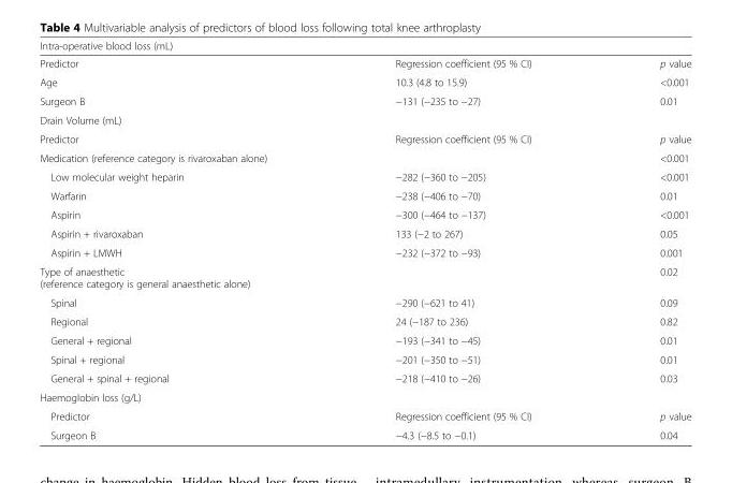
<table><thead><tr><td colspan="3">Intra-operative blood loss (mL)</td></tr><tr><td>Predictor</td><td>Regression coefficient (95 % CI)</td><td>p value</td></tr></thead><tbody><tr><td>Age</td><td>10.3 (4.8 to 15.9)</td><td>&lt;0.001</td></tr><tr><td>Surgeon B</td><td>−131 (−235 to −27)</td><td>0.01</td></tr><tr><td colspan="3">Drain Volume (mL)</td></tr><tr><td>Predictor</td><td>Regression coefficient (95 % CI)</td><td>p value</td></tr><tr><td>Medication (reference category is rivaroxaban alone)</td><td></td><td>&lt;0.001</td></tr><tr><td>Low molecular weight heparin</td><td>−282 (−360 to −205)</td><td>&lt;0.001</td></tr><tr><td>Warfarin</td><td>−238 (−406 to −70)</td><td>0.01</td></tr><tr><td>Aspirin</td><td>−300 (−464 to −137)</td><td>&lt;0.001</td></tr><tr><td>Aspirin + rivaroxaban</td><td>133 (−2 to 267)</td><td>0.05</td></tr><tr><td>Aspirin + LMWH</td><td>−232 (−372 to −93)</td><td>0.001</td></tr><tr><td>Type of anaesthetic (reference category is general anaesthetic alone)</td><td></td><td>0.02</td></tr><tr><td>Spinal</td><td>−290 (−621 to 41)</td><td>0.09</td></tr><tr><td>Regional</td><td>24 (−187 to 236)</td><td>0.82</td></tr><tr><td>General + regional</td><td>−193 (−341 to −45)</td><td>0.01</td></tr><tr><td>Spinal + regional</td><td>−201 (−350 to −51)</td><td>0.01</td></tr><tr><td>General + spinal + regional</td><td>−218 (−410 to −26)</td><td>0.03</td></tr><tr><td colspan="3">Haemoglobin loss (g/L)</td></tr><tr><td>Predictor</td><td>Regression coefficient (95 % CI)</td><td>p value</td></tr><tr><td>Surgeon B</td><td>−4.3 (−8.5 to −0.1)</td><td>0.04</td></tr></tbody></table>